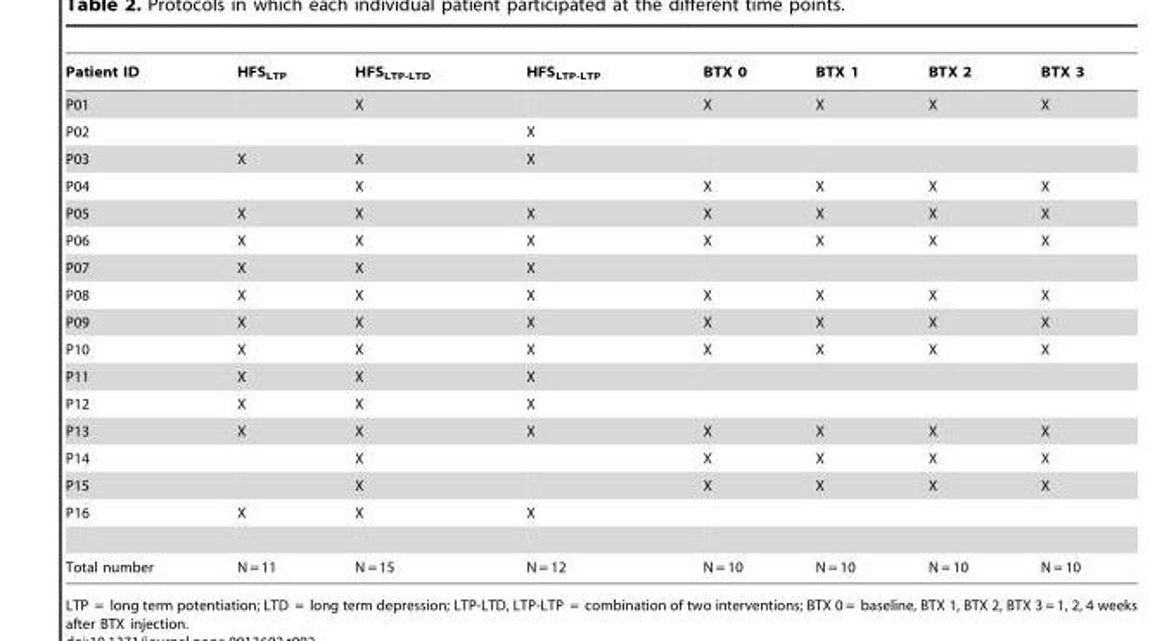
<table><thead><tr><td>Patient ID</td><td>HFS<sub>LTP</sub></td><td>HFS<sub>LTP-LTD</sub></td><td>HFS<sub>LTP-LTP</sub></td><td>BTX 0</td><td>BTX 1</td><td>BTX 2</td><td>BTX 3</td></tr></thead><tbody><tr><td>P01</td><td></td><td>X</td><td></td><td>X</td><td>X</td><td>X</td><td>X</td></tr><tr><td>P02</td><td></td><td></td><td>X</td><td></td><td></td><td></td><td></td></tr><tr><td>P03</td><td>X</td><td>X</td><td>X</td><td></td><td></td><td></td><td></td></tr><tr><td>P04</td><td></td><td>X</td><td></td><td>X</td><td>X</td><td>X</td><td>X</td></tr><tr><td>P05</td><td>X</td><td>X</td><td>X</td><td>X</td><td>X</td><td>X</td><td>X</td></tr><tr><td>P06</td><td>X</td><td>X</td><td>X</td><td>X</td><td>X</td><td>X</td><td>X</td></tr><tr><td>P07</td><td>X</td><td>X</td><td>X</td><td></td><td></td><td></td><td></td></tr><tr><td>P08</td><td>X</td><td>X</td><td>X</td><td>X</td><td>X</td><td>X</td><td>X</td></tr><tr><td>P09</td><td>X</td><td>X</td><td>X</td><td>X</td><td>X</td><td>X</td><td>X</td></tr><tr><td>P10</td><td>X</td><td>X</td><td>X</td><td>X</td><td>X</td><td>X</td><td>X</td></tr><tr><td>P11</td><td>X</td><td>X</td><td>X</td><td></td><td></td><td></td><td></td></tr><tr><td>P12</td><td>X</td><td>X</td><td>X</td><td></td><td></td><td></td><td></td></tr><tr><td>P13</td><td>X</td><td>X</td><td>X</td><td>X</td><td>X</td><td>X</td><td>X</td></tr><tr><td>P14</td><td></td><td>X</td><td></td><td>X</td><td>X</td><td>X</td><td>X</td></tr><tr><td>P15</td><td></td><td>X</td><td></td><td>X</td><td>X</td><td>X</td><td>X</td></tr><tr><td>P16</td><td>X</td><td>X</td><td>X</td><td></td><td></td><td></td><td></td></tr><tr><td>Total number</td><td>N = 11</td><td>N = 15</td><td>N = 12</td><td>N = 10</td><td>N = 10</td><td>N = 10</td><td>N = 10</td></tr></tbody></table>